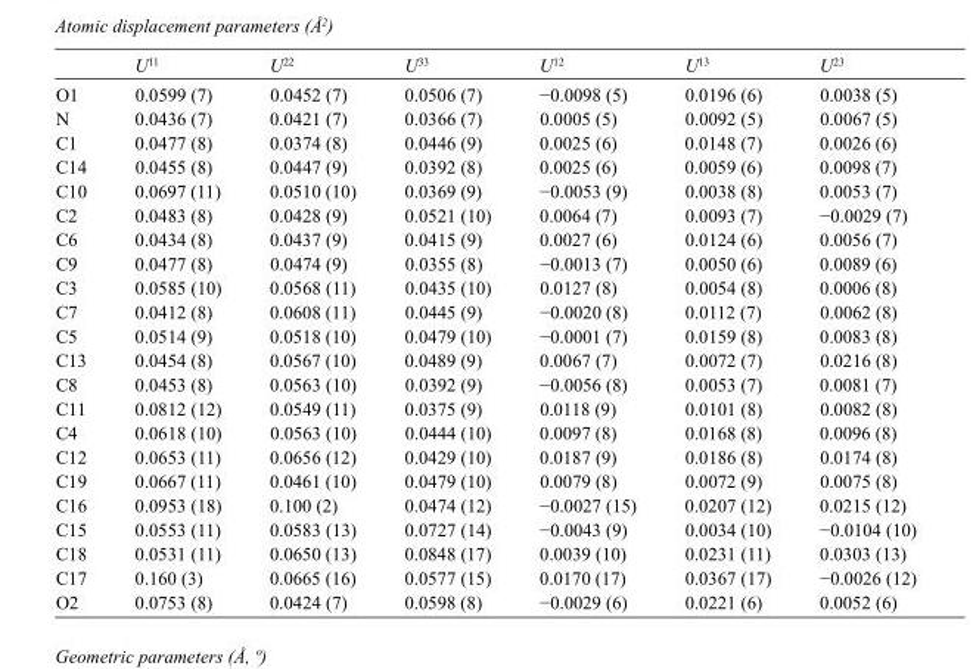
<table><thead><tr><td></td><td>U<sup>11</sup></td><td>U<sup>22</sup></td><td>U<sup>33</sup></td><td>U<sup>12</sup></td><td>U<sup>13</sup></td><td>U<sup>23</sup></td></tr></thead><tbody><tr><td>O1</td><td>0.0599 (7)</td><td>0.0452 (7)</td><td>0.0506 (7)</td><td>−0.0098 (5)</td><td>0.0196 (6)</td><td>0.0038 (5)</td></tr><tr><td>N</td><td>0.0436 (7)</td><td>0.0421 (7)</td><td>0.0366 (7)</td><td>0.0005 (5)</td><td>0.0092 (5)</td><td>0.0067 (5)</td></tr><tr><td>C1</td><td>0.0477 (8)</td><td>0.0374 (8)</td><td>0.0446 (9)</td><td>0.0025 (6)</td><td>0.0148 (7)</td><td>0.0026 (6)</td></tr><tr><td>C14</td><td>0.0455 (8)</td><td>0.0447 (9)</td><td>0.0392 (8)</td><td>0.0025 (6)</td><td>0.0059 (6)</td><td>0.0098 (7)</td></tr><tr><td>C10</td><td>0.0697 (11)</td><td>0.0510 (10)</td><td>0.0369 (9)</td><td>−0.0053 (9)</td><td>0.0038 (8)</td><td>0.0053 (7)</td></tr><tr><td>C2</td><td>0.0483 (8)</td><td>0.0428 (9)</td><td>0.0521 (10)</td><td>0.0064 (7)</td><td>0.0093 (7)</td><td>−0.0029 (7)</td></tr><tr><td>C6</td><td>0.0434 (8)</td><td>0.0437 (9)</td><td>0.0415 (9)</td><td>0.0027 (6)</td><td>0.0124 (6)</td><td>0.0056 (7)</td></tr><tr><td>C9</td><td>0.0477 (8)</td><td>0.0474 (9)</td><td>0.0355 (8)</td><td>−0.0013 (7)</td><td>0.0050 (6)</td><td>0.0089 (6)</td></tr><tr><td>C3</td><td>0.0585 (10)</td><td>0.0568 (11)</td><td>0.0435 (10)</td><td>0.0127 (8)</td><td>0.0054 (8)</td><td>0.0006 (8)</td></tr><tr><td>C7</td><td>0.0412 (8)</td><td>0.0608 (11)</td><td>0.0445 (9)</td><td>−0.0020 (8)</td><td>0.0112 (7)</td><td>0.0062 (8)</td></tr><tr><td>C5</td><td>0.0514 (9)</td><td>0.0518 (10)</td><td>0.0479 (10)</td><td>−0.0001 (7)</td><td>0.0159 (8)</td><td>0.0083 (8)</td></tr><tr><td>C13</td><td>0.0454 (8)</td><td>0.0567 (10)</td><td>0.0489 (9)</td><td>0.0067 (7)</td><td>0.0072 (7)</td><td>0.0216 (8)</td></tr><tr><td>C8</td><td>0.0453 (8)</td><td>0.0563 (10)</td><td>0.0392 (9)</td><td>−0.0056 (8)</td><td>0.0053 (7)</td><td>0.0081 (7)</td></tr><tr><td>C11</td><td>0.0812 (12)</td><td>0.0549 (11)</td><td>0.0375 (9)</td><td>0.0118 (9)</td><td>0.0101 (8)</td><td>0.0082 (8)</td></tr><tr><td>C4</td><td>0.0618 (10)</td><td>0.0563 (10)</td><td>0.0444 (10)</td><td>0.0097 (8)</td><td>0.0168 (8)</td><td>0.0096 (8)</td></tr><tr><td>C12</td><td>0.0653 (11)</td><td>0.0656 (12)</td><td>0.0429 (10)</td><td>0.0187 (9)</td><td>0.0186 (8)</td><td>0.0174 (8)</td></tr><tr><td>C19</td><td>0.0667 (11)</td><td>0.0461 (10)</td><td>0.0479 (10)</td><td>0.0079 (8)</td><td>0.0072 (9)</td><td>0.0075 (8)</td></tr><tr><td>C16</td><td>0.0953 (18)</td><td>0.100 (2)</td><td>0.0474 (12)</td><td>−0.0027 (15)</td><td>0.0207 (12)</td><td>0.0215 (12)</td></tr><tr><td>C15</td><td>0.0553 (11)</td><td>0.0583 (13)</td><td>0.0727 (14)</td><td>−0.0043 (9)</td><td>0.0034 (10)</td><td>−0.0104 (10)</td></tr><tr><td>C18</td><td>0.0531 (11)</td><td>0.0650 (13)</td><td>0.0848 (17)</td><td>0.0039 (10)</td><td>0.0231 (11)</td><td>0.0303 (13)</td></tr><tr><td>C17</td><td>0.160 (3)</td><td>0.0665 (16)</td><td>0.0577 (15)</td><td>0.0170 (17)</td><td>0.0367 (17)</td><td>−0.0026 (12)</td></tr><tr><td>O2</td><td>0.0753 (8)</td><td>0.0424 (7)</td><td>0.0598 (8)</td><td>−0.0029 (6)</td><td>0.0221 (6)</td><td>0.0052 (6)</td></tr></tbody></table>